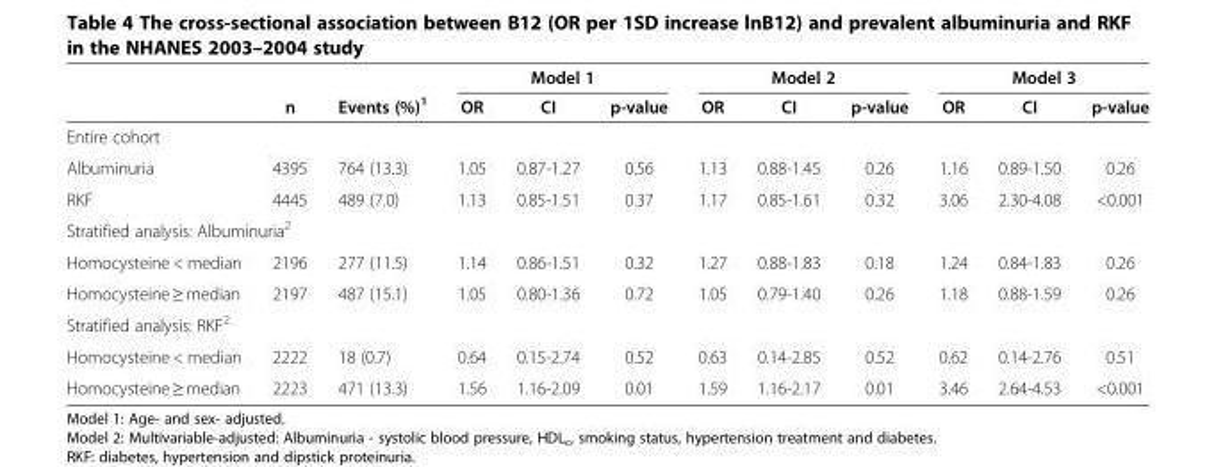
<table><thead><tr><td rowspan="2"></td><td rowspan="2">n</td><td rowspan="2">Events (%)<sup>1</sup></td><td colspan="3">Model 1</td><td colspan="3">Model 2</td><td colspan="3">Model 3</td></tr><tr><td>OR</td><td>CI</td><td>p-value</td><td>OR</td><td>CI</td><td>p-value</td><td>OR</td><td>CI</td><td>p-value</td></tr></thead><tbody><tr><td colspan="12">Entire cohort</td></tr><tr><td>Albuminuria</td><td>4395</td><td>764 (13.3)</td><td>1.05</td><td>0.87-1.27</td><td>0.56</td><td>1.13</td><td>0.88-1.45</td><td>0.26</td><td>1.16</td><td>0.89-1.50</td><td>0.26</td></tr><tr><td>RKF</td><td>4445</td><td>489 (7.0)</td><td>1.13</td><td>0.85-1.51</td><td>0.37</td><td>1.17</td><td>0.85-1.61</td><td>0.32</td><td>3.06</td><td>2.30-4.08</td><td>&lt;0.001</td></tr><tr><td colspan="12">Stratified analysis: Albuminuria<sup>2</sup></td></tr><tr><td>Homocysteine &lt; median</td><td>2196</td><td>277 (11.5)</td><td>1.14</td><td>0.86-1.51</td><td>0.32</td><td>1.27</td><td>0.88-1.83</td><td>0.18</td><td>1.24</td><td>0.84-1.83</td><td>0.26</td></tr><tr><td>Homocysteine ≥ median</td><td>2197</td><td>487 (15.1)</td><td>1.05</td><td>0.80-1.36</td><td>0.72</td><td>1.05</td><td>0.79-1.40</td><td>0.26</td><td>1.18</td><td>0.88-1.59</td><td>0.26</td></tr><tr><td colspan="12">Stratified analysis: RKF<sup>2</sup></td></tr><tr><td>Homocysteine &lt; median</td><td>2222</td><td>18 (0.7)</td><td>0.64</td><td>0.15-2.74</td><td>0.52</td><td>0.63</td><td>0.14-2.85</td><td>0.52</td><td>0.62</td><td>0.14-2.76</td><td>0.51</td></tr><tr><td>Homocysteine ≥ median</td><td>2223</td><td>471 (13.3)</td><td>1.56</td><td>1.16-2.09</td><td>0.01</td><td>1.59</td><td>1.16-2.17</td><td>0.01</td><td>3.46</td><td>2.64-4.53</td><td>&lt;0.001</td></tr></tbody></table>